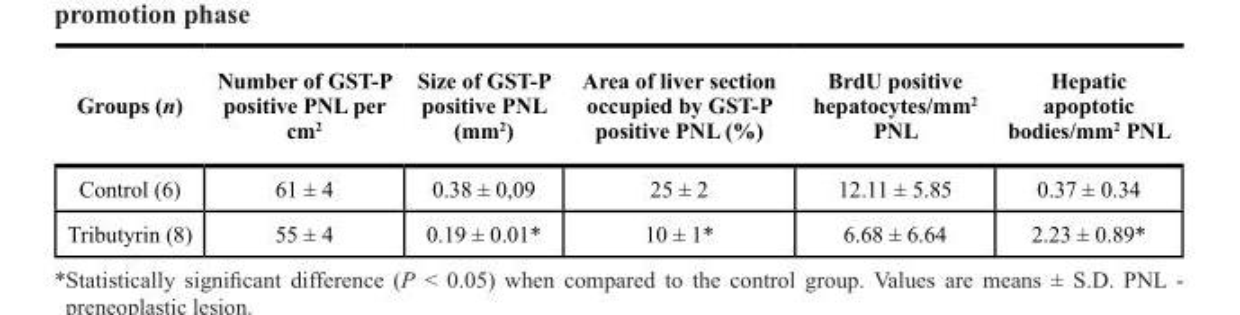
<table><thead><tr><td>Groups (n)</td><td>Number of GST-P positive PNL per cm<sup>2</sup></td><td>Size of GST-P positive PNL (mm<sup>2</sup>)</td><td>Area of liver section occupied by GST-P positive PNL (%)</td><td>BrdU positive hepatocytes/mm<sup>2</sup> PNL</td><td>Hepatic apoptotic bodies/mm<sup>2</sup> PNL</td></tr></thead><tbody><tr><td>Control (6)</td><td>61 ± 4</td><td>0.38 ± 0,09</td><td>25 ± 2</td><td>12.11 ± 5.85</td><td>0.37 ± 0.34</td></tr><tr><td>Tributyrin (8)</td><td>55 ± 4</td><td>0.19 ± 0.01*</td><td>10 ± 1*</td><td>6.68 ± 6.64</td><td>2.23 ± 0.89*</td></tr></tbody></table>